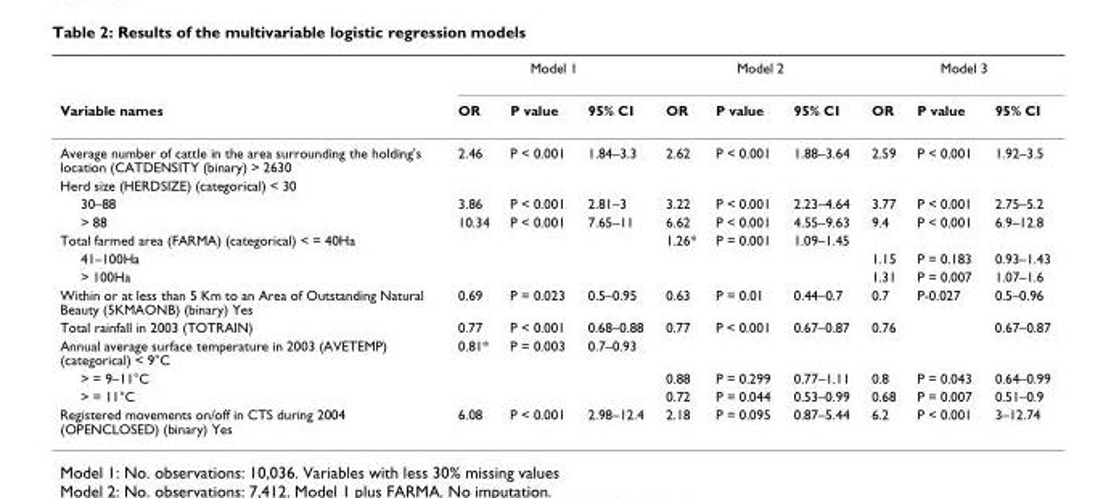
<table><thead><tr><td rowspan="2">Variable names</td><td colspan="3">Model 1</td><td colspan="3">Model 2</td><td colspan="3">Model 3</td></tr><tr><td>OR</td><td>P value</td><td>95% CI</td><td>OR</td><td>P value</td><td>95% CI</td><td>OR</td><td>P value</td><td>95% CI</td></tr></thead><tbody><tr><td>Average number of cattle in the area surrounding the holding&#x27;s location (CATDENSITY (binary) &gt; 2630</td><td>2.46</td><td>P &lt; 0.001</td><td>1.84–3.3</td><td>2.62</td><td>P &lt; 0.001</td><td>1.88–3.64</td><td>2.59</td><td>P &lt; 0.001</td><td>1.92–3.5</td></tr><tr><td colspan="10">Herd size (HERDSIZE) (categorical) &lt; 30</td></tr><tr><td>30–88</td><td>3.86</td><td>P &lt; 0.001</td><td>2.81–3</td><td>3.22</td><td>P &lt; 0.001</td><td>2.23–4.64</td><td>3.77</td><td>P &lt; 0.001</td><td>2.75–5.2</td></tr><tr><td>&gt; 88</td><td>10.34</td><td>P &lt; 0.001</td><td>7.65–11</td><td>6.62</td><td>P &lt; 0.001</td><td>4.55–9.63</td><td>9.4</td><td>P &lt; 0.001</td><td>6.9–12.8</td></tr><tr><td>Total farmed area (FARMA) (categorical) &lt; = 40Ha</td><td></td><td></td><td></td><td>1.26*</td><td>P = 0.001</td><td>1.09–1.45</td><td></td><td></td><td></td></tr><tr><td>41–100Ha</td><td></td><td></td><td></td><td></td><td></td><td></td><td>1.15</td><td>P = 0.183</td><td>0.93–1.43</td></tr><tr><td>&gt; 100Ha</td><td></td><td></td><td></td><td></td><td></td><td></td><td>1.31</td><td>P = 0.007</td><td>1.07–1.6</td></tr><tr><td>Within or at less than 5 Km to an Area of Outstanding Natural Beauty (5KMAONB) (binary) Yes</td><td>0.69</td><td>P = 0.023</td><td>0.5–0.95</td><td>0.63</td><td>P = 0.01</td><td>0.44–0.7</td><td>0.7</td><td>P-0.027</td><td>0.5–0.96</td></tr><tr><td>Total rainfall in 2003 (TOTRAIN)</td><td>0.77</td><td>P &lt; 0.001</td><td>0.68–0.88</td><td>0.77</td><td>P &lt; 0.001</td><td>0.67–0.87</td><td>0.76</td><td></td><td>0.67–0.87</td></tr><tr><td>Annual average surface temperature in 2003 (AVETEMP) (categorical) &lt; 9°C</td><td>0.81*</td><td>P = 0.003</td><td>0.7–0.93</td><td></td><td></td><td></td><td></td><td></td><td></td></tr><tr><td>&gt; = 9–11°C</td><td></td><td></td><td></td><td>0.88</td><td>P = 0.299</td><td>0.77–1.11</td><td>0.8</td><td>P = 0.043</td><td>0.64–0.99</td></tr><tr><td>&gt; = 11°C</td><td></td><td></td><td></td><td>0.72</td><td>P = 0.044</td><td>0.53–0.99</td><td>0.68</td><td>P = 0.007</td><td>0.51–0.9</td></tr><tr><td>Registered movements on/off in CTS during 2004 (OPENCLOSED) (binary) Yes</td><td>6.08</td><td>P &lt; 0.001</td><td>2.98–12.4</td><td>2.18</td><td>P = 0.095</td><td>0.87–5.44</td><td>6.2</td><td>P &lt; 0.001</td><td>3–12.74</td></tr></tbody></table>